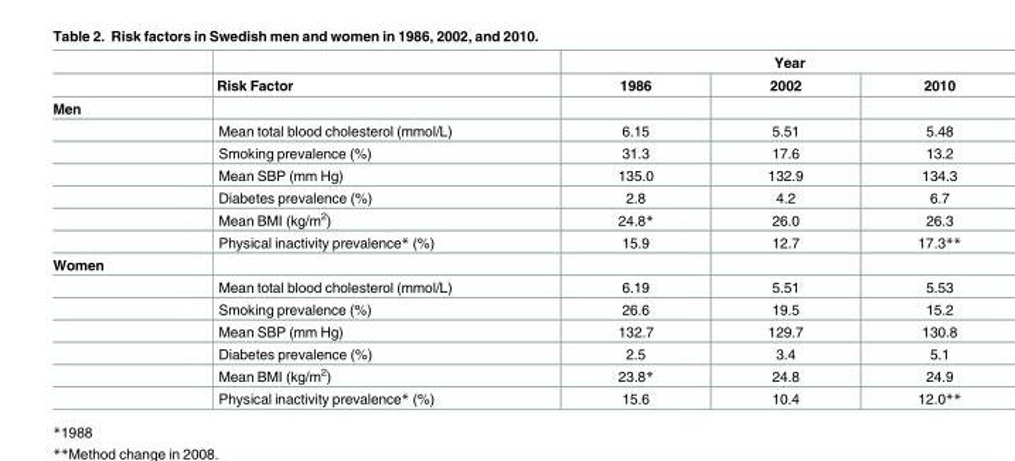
<table><thead><tr><td rowspan="2"></td><td rowspan="2">Risk Factor</td><td colspan="3">Year</td></tr><tr><td>1986</td><td>2002</td><td>2010</td></tr></thead><tbody><tr><td colspan="5">Men</td></tr><tr><td></td><td>Mean total blood cholesterol (mmol/L)</td><td>6.15</td><td>5.51</td><td>5.48</td></tr><tr><td></td><td>Smoking prevalence (%)</td><td>31.3</td><td>17.6</td><td>13.2</td></tr><tr><td></td><td>Mean SBP (mm Hg)</td><td>135.0</td><td>132.9</td><td>134.3</td></tr><tr><td></td><td>Diabetes prevalence (%)</td><td>2.8</td><td>4.2</td><td>6.7</td></tr><tr><td></td><td>Mean BMI (kg/m<sup>2</sup>)</td><td>24.8*</td><td>26.0</td><td>26.3</td></tr><tr><td></td><td>Physical inactivity prevalence* (%)</td><td>15.9</td><td>12.7</td><td>17.3**</td></tr><tr><td colspan="5">Women</td></tr><tr><td></td><td>Mean total blood cholesterol (mmol/L)</td><td>6.19</td><td>5.51</td><td>5.53</td></tr><tr><td></td><td>Smoking prevalence (%)</td><td>26.6</td><td>19.5</td><td>15.2</td></tr><tr><td></td><td>Mean SBP (mm Hg)</td><td>132.7</td><td>129.7</td><td>130.8</td></tr><tr><td></td><td>Diabetes prevalence (%)</td><td>2.5</td><td>3.4</td><td>5.1</td></tr><tr><td></td><td>Mean BMI (kg/m<sup>2</sup>)</td><td>23.8*</td><td>24.8</td><td>24.9</td></tr><tr><td></td><td>Physical inactivity prevalence* (%)</td><td>15.6</td><td>10.4</td><td>12.0**</td></tr></tbody></table>